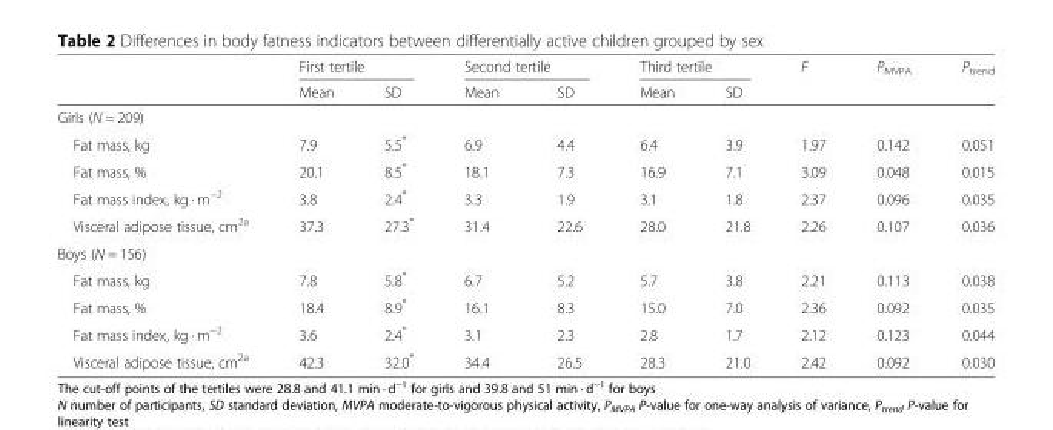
<table><thead><tr><td rowspan="2"></td><td colspan="2">First tertile</td><td colspan="2">Second tertile</td><td colspan="2">Third tertile</td><td rowspan="2">F</td><td rowspan="2">P<sub>MVPA</sub></td><td rowspan="2">P<sub>trend</sub></td></tr><tr><td>Mean</td><td>SD</td><td>Mean</td><td>SD</td><td>Mean</td><td>SD</td></tr></thead><tbody><tr><td colspan="10">Girls (N = 209)</td></tr><tr><td>Fat mass, kg</td><td>7.9</td><td>5.5*</td><td>6.9</td><td>4.4</td><td>6.4</td><td>3.9</td><td>1.97</td><td>0.142</td><td>0.051</td></tr><tr><td>Fat mass, %</td><td>20.1</td><td>8.5*</td><td>18.1</td><td>7.3</td><td>16.9</td><td>7.1</td><td>3.09</td><td>0.048</td><td>0.015</td></tr><tr><td>Fat mass index, kg · m<sup>−2</sup></td><td>3.8</td><td>2.4*</td><td>3.3</td><td>1.9</td><td>3.1</td><td>1.8</td><td>2.37</td><td>0.096</td><td>0.035</td></tr><tr><td>Visceral adipose tissue, cm<sup>2a</sup></td><td>37.3</td><td>27.3*</td><td>31.4</td><td>22.6</td><td>28.0</td><td>21.8</td><td>2.26</td><td>0.107</td><td>0.036</td></tr><tr><td colspan="10">Boys (N = 156)</td></tr><tr><td>Fat mass, kg</td><td>7.8</td><td>5.8*</td><td>6.7</td><td>5.2</td><td>5.7</td><td>3.8</td><td>2.21</td><td>0.113</td><td>0.038</td></tr><tr><td>Fat mass, %</td><td>18.4</td><td>8.9*</td><td>16.1</td><td>8.3</td><td>15.0</td><td>7.0</td><td>2.36</td><td>0.092</td><td>0.035</td></tr><tr><td>Fat mass index, kg · m<sup>−2</sup></td><td>3.6</td><td>2.4*</td><td>3.1</td><td>2.3</td><td>2.8</td><td>1.7</td><td>2.12</td><td>0.123</td><td>0.044</td></tr><tr><td>Visceral adipose tissue, cm<sup>2a</sup></td><td>42.3</td><td>32.0*</td><td>34.4</td><td>26.5</td><td>28.3</td><td>21.0</td><td>2.42</td><td>0.092</td><td>0.030</td></tr></tbody></table>